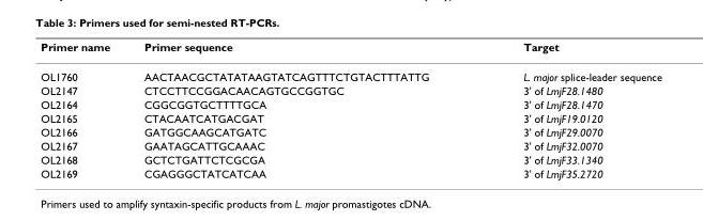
<table><thead><tr><td>Primer name</td><td>Primer sequence</td><td>Target</td></tr></thead><tbody><tr><td>OL1760</td><td>AACTAACGCTATATAAGTATCAGTTTCTGTACTTTATTG</td><td>L. major splice-leader sequence</td></tr><tr><td>OL2147</td><td>CTCCTTCCGGACAACAGTGCCGGTGC</td><td>3&#x27; of LmjF28.1480</td></tr><tr><td>OL2164</td><td>CGGCGGTGCTTTTGCA</td><td>3&#x27; of LmjF28.1470</td></tr><tr><td>OL2165</td><td>CTACAATCATGACGAT</td><td>3&#x27; of LmjF19.0120</td></tr><tr><td>OL2166</td><td>GATGGCAAGCATGATC</td><td>3&#x27; of LmjF29.0070</td></tr><tr><td>OL2167</td><td>GAATAGCATTGCAAAC</td><td>3&#x27; of LmjF32.0070</td></tr><tr><td>OL2168</td><td>GCTCTGATTCTCGCGA</td><td>3&#x27; of LmjF33.1340</td></tr><tr><td>OL2169</td><td>CGAGGGCTATCATCAA</td><td>3&#x27; of LmjF35.2720</td></tr></tbody></table>